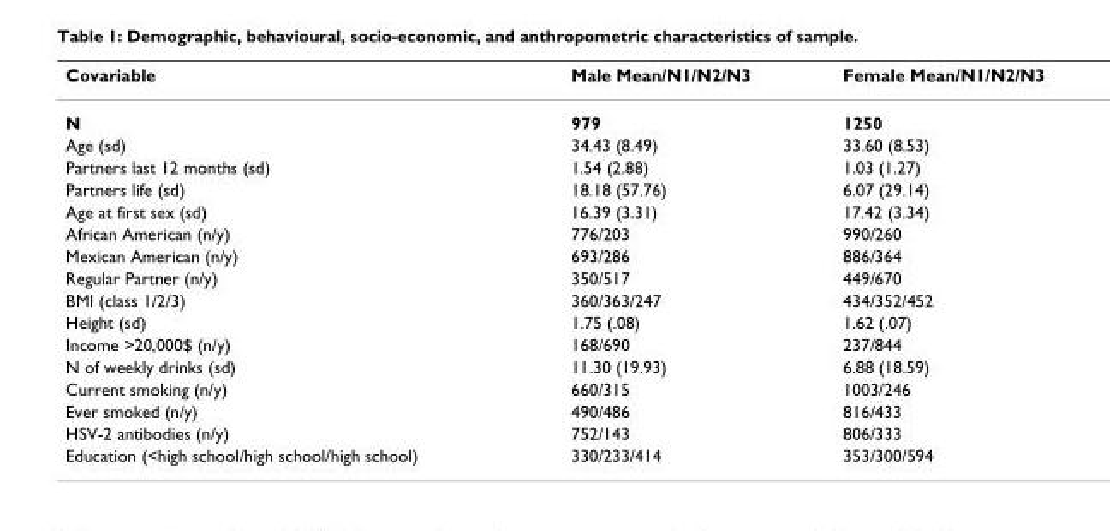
<table><thead><tr><td>Covariable</td><td>Male Mean/N1/N2/N3</td><td>Female Mean/N1/N2/N3</td></tr></thead><tbody><tr><td>N</td><td>979</td><td>1250</td></tr><tr><td>Age (sd)</td><td>34.43 (8.49)</td><td>33.60 (8.53)</td></tr><tr><td>Partners last 12 months (sd)</td><td>1.54 (2.88)</td><td>1.03 (1.27)</td></tr><tr><td>Partners life (sd)</td><td>18.18 (57.76)</td><td>6.07 (29.14)</td></tr><tr><td>Age at first sex (sd)</td><td>16.39 (3.31)</td><td>17.42 (3.34)</td></tr><tr><td>African American (n/y)</td><td>776/203</td><td>990/260</td></tr><tr><td>Mexican American (n/y)</td><td>693/286</td><td>886/364</td></tr><tr><td>Regular Partner (n/y)</td><td>350/517</td><td>449/670</td></tr><tr><td>BMI (class 1/2/3)</td><td>360/363/247</td><td>434/352/452</td></tr><tr><td>Height (sd)</td><td>1.75 (.08)</td><td>1.62 (.07)</td></tr><tr><td>Income &gt;20,000$ (n/y)</td><td>168/690</td><td>237/844</td></tr><tr><td>N of weekly drinks (sd)</td><td>11.30 (19.93)</td><td>6.88 (18.59)</td></tr><tr><td>Current smoking (n/y)</td><td>660/315</td><td>1003/246</td></tr><tr><td>Ever smoked (n/y)</td><td>490/486</td><td>816/433</td></tr><tr><td>HSV-2 antibodies (n/y)</td><td>752/143</td><td>806/333</td></tr><tr><td>Education (&lt;high school/high school/high school)</td><td>330/233/414</td><td>353/300/594</td></tr></tbody></table>